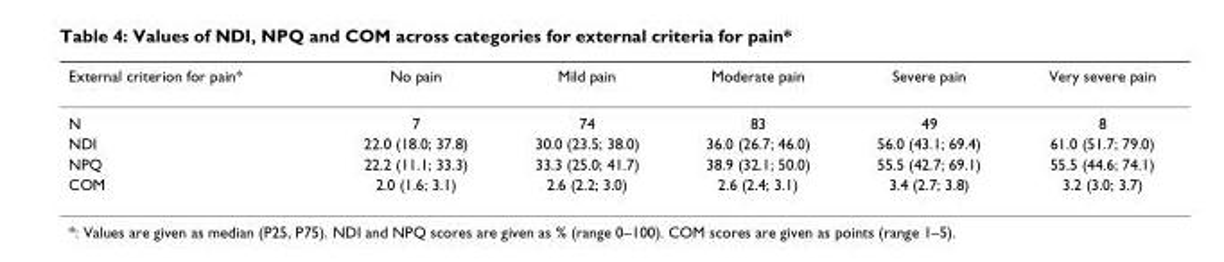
<table><thead><tr><td>External criterion for pain*</td><td>No pain</td><td>Mild pain</td><td>Moderate pain</td><td>Severe pain</td><td>Very severe pain</td></tr></thead><tbody><tr><td>N</td><td>7</td><td>74</td><td>83</td><td>49</td><td>8</td></tr><tr><td>NDI</td><td>22.0 (18.0; 37.8)</td><td>30.0 (23.5; 38.0)</td><td>36.0 (26.7; 46.0)</td><td>56.0 (43.1; 69.4)</td><td>61.0 (51.7; 79.0)</td></tr><tr><td>NPQ</td><td>22.2 (11.1; 33.3)</td><td>33.3 (25.0; 41.7)</td><td>38.9 (32.1; 50.0)</td><td>55.5 (42.7; 69.1)</td><td>55.5 (44.6; 74.1)</td></tr><tr><td>COM</td><td>2.0 (1.6; 3.1)</td><td>2.6 (2.2; 3.0)</td><td>2.6 (2.4; 3.1)</td><td>3.4 (2.7; 3.8)</td><td>3.2 (3.0; 3.7)</td></tr></tbody></table>